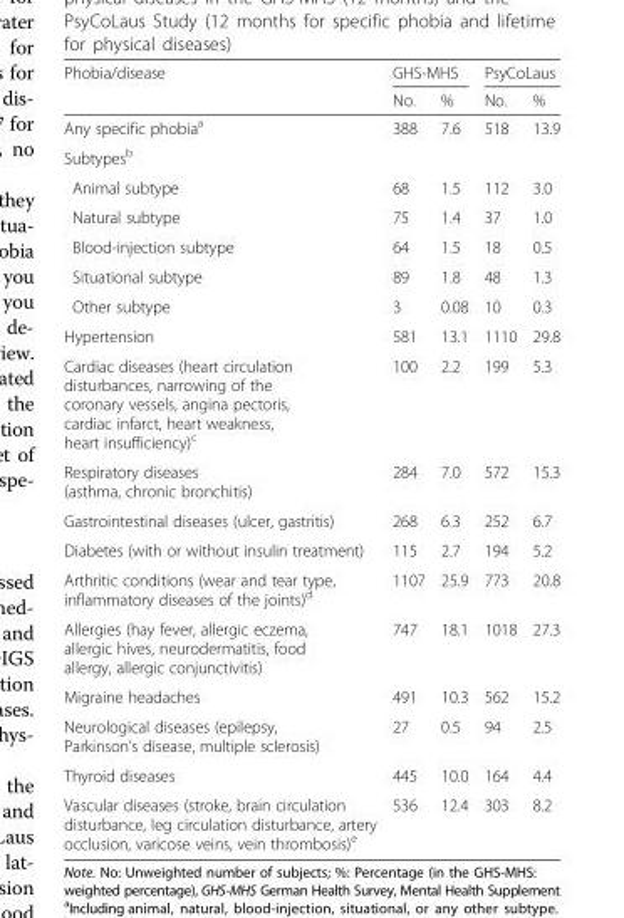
<table><thead><tr><td rowspan="2">Phobia/disease</td><td colspan="2">GHS-MHS</td><td colspan="2">PsyCoLaus</td></tr><tr><td>No.</td><td>%</td><td>No.</td><td>%</td></tr></thead><tbody><tr><td>Any specific phobia<sup>a</sup></td><td>388</td><td>7.6</td><td>518</td><td>13.9</td></tr><tr><td colspan="5">Subtypes<sup>b</sup></td></tr><tr><td>Animal subtype</td><td>68</td><td>1.5</td><td>112</td><td>3.0</td></tr><tr><td>Natural subtype</td><td>75</td><td>1.4</td><td>37</td><td>1.0</td></tr><tr><td>Blood-injection subtype</td><td>64</td><td>1.5</td><td>18</td><td>0.5</td></tr><tr><td>Situational subtype</td><td>89</td><td>1.8</td><td>48</td><td>1.3</td></tr><tr><td>Other subtype</td><td>3</td><td>0.08</td><td>10</td><td>0.3</td></tr><tr><td>Hypertension</td><td>581</td><td>13.1</td><td>1110</td><td>29.8</td></tr><tr><td>Cardiac diseases (heart circulation disturbances, narrowing of the coronary vessels, angina pectoris, cardiac infarct, heart weakness, heart insufficiency)<sup>c</sup></td><td>100</td><td>2.2</td><td>199</td><td>5.3</td></tr><tr><td>Respiratory diseases (asthma, chronic bronchitis)</td><td>284</td><td>7.0</td><td>572</td><td>15.3</td></tr><tr><td>Gastrointestinal diseases (ulcer, gastritis)</td><td>268</td><td>6.3</td><td>252</td><td>6.7</td></tr><tr><td>Diabetes (with or without insulin treatment)</td><td>115</td><td>2.7</td><td>194</td><td>5.2</td></tr><tr><td>Arthritic conditions (wear and tear type, inflammatory diseases of the joints)<sup>d</sup></td><td>1107</td><td>25.9</td><td>773</td><td>20.8</td></tr><tr><td>Allergies (hay fever, allergic eczema, allergic hives, neurodermatitis, food allergy, allergic conjunctivitis)</td><td>747</td><td>18.1</td><td>1018</td><td>27.3</td></tr><tr><td>Migraine headaches</td><td>491</td><td>10.3</td><td>562</td><td>15.2</td></tr><tr><td>Neurological diseases (epilepsy, Parkinson’s disease, multiple sclerosis)</td><td>27</td><td>0.5</td><td>94</td><td>2.5</td></tr><tr><td>Thyroid diseases</td><td>445</td><td>10.0</td><td>164</td><td>4.4</td></tr><tr><td>Vascular diseases (stroke, brain circulation disturbance, leg circulation disturbance, artery occlusion, varicose veins, vein thrombosis)<sup>e</sup></td><td>536</td><td>12.4</td><td>303</td><td>8.2</td></tr></tbody></table>